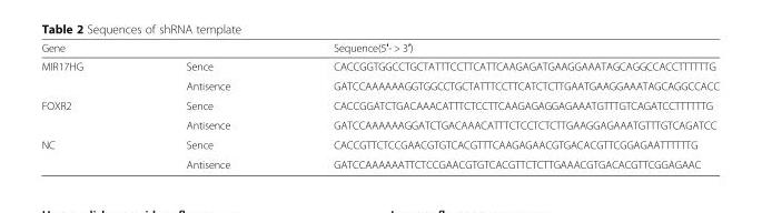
<table><thead><tr><td>Gene</td><td></td><td>Sequence(5′- &gt; 3′)</td></tr></thead><tbody><tr><td rowspan="2">MIR17HG</td><td>Sence</td><td>CACCGGTGGCCTGCTATTTCCTTCATTCAAGAGATGAAGGAAATAGCAGGCCACCTTTTTTG</td></tr><tr><td>Antisence</td><td>GATCCAAAAAAGGTGGCCTGCTATTTCCTTCATCTCTTGAATGAAGGAAATAGCAGGCCACC</td></tr><tr><td rowspan="2">FOXR2</td><td>Sence</td><td>CACCGGATCTGACAAACATTTCTCCTTCAAGAGAGGAGAAATGTTTGTCAGATCCTTTTTTG</td></tr><tr><td>Antisence</td><td>GATCCAAAAAAGGATCTGACAAACATTTCTCCTCTCTTGAAGGAGAAATGTTTGTCAGATCC</td></tr><tr><td rowspan="2">NC</td><td>Sence</td><td>CACCGTTCTCCGAACGTGTCACGTTTCAAGAGAACGTGACACGTTCGGAGAATTTTTTG</td></tr><tr><td>Antisence</td><td>GATCCAAAAAATTCTCCGAACGTGTCACGTTCTCTTGAAACGTGACACGTTCGGAGAAC</td></tr></tbody></table>